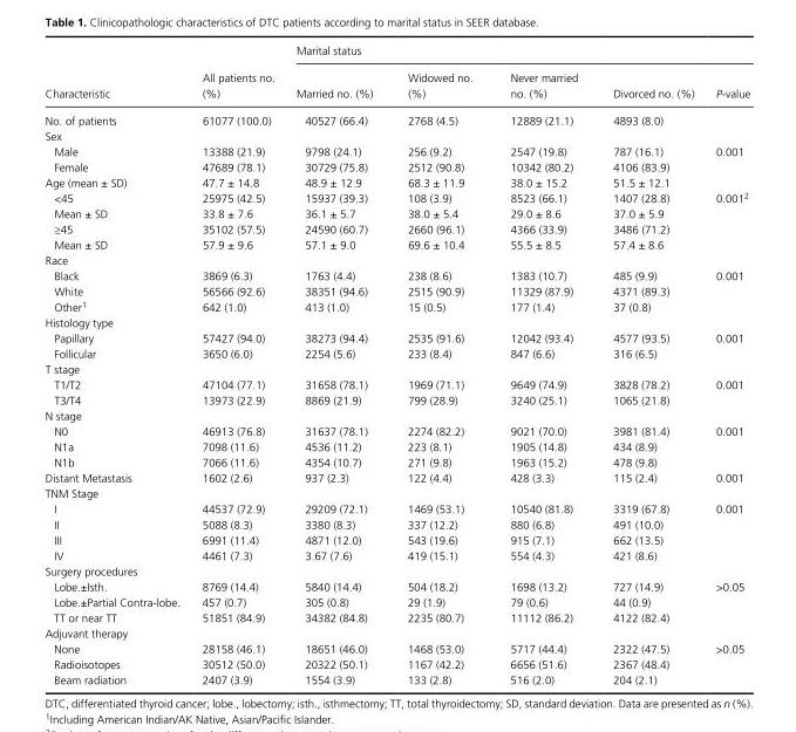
<table><thead><tr><td rowspan="2">Characteristic</td><td rowspan="2">All patients no. (%)</td><td colspan="5">Marital status</td></tr><tr><td>Married no. (%)</td><td>Widowed no. (%)</td><td>Never married no. (%)</td><td>Divorced no. (%)</td><td>P-value</td></tr></thead><tbody><tr><td>No. of patients</td><td>61077 (100.0)</td><td>40527 (66.4)</td><td>2768 (4.5)</td><td>12889 (21.1)</td><td>4893 (8.0)</td><td></td></tr><tr><td colspan="7">Sex</td></tr><tr><td>Male</td><td>13388 (21.9)</td><td>9798 (24.1)</td><td>256 (9.2)</td><td>2547 (19.8)</td><td>787 (16.1)</td><td rowspan="2">0.001</td></tr><tr><td>Female</td><td>47689 (78.1)</td><td>30729 (75.8)</td><td>2512 (90.8)</td><td>10342 (80.2)</td><td>4106 (83.9)</td></tr><tr><td>Age (mean ± SD)</td><td>47.7 ± 14.8</td><td>48.9 ± 12.9</td><td>68.3 ± 11.9</td><td>38.0 ± 15.2</td><td>51.5 ± 12.1</td><td></td></tr><tr><td>&lt;45</td><td>25975 (42.5)</td><td>15937 (39.3)</td><td>108 (3.9)</td><td>8523 (66.1)</td><td>1407 (28.8)</td><td rowspan="4">0.0012</td></tr><tr><td>Mean ± SD</td><td>33.8 ± 7.6</td><td>36.1 ± 5.7</td><td>38.0 ± 5.4</td><td>29.0 ± 8.6</td><td>37.0 ± 5.9</td></tr><tr><td>≥45</td><td>35102 (57.5)</td><td>24590 (60.7)</td><td>2660 (96.1)</td><td>4366 (33.9)</td><td>3486 (71.2)</td></tr><tr><td>Mean ± SD</td><td>57.9 ± 9.6</td><td>57.1 ± 9.0</td><td>69.6 ± 10.4</td><td>55.5 ± 8.5</td><td>57.4 ± 8.6</td></tr><tr><td colspan="7">Race</td></tr><tr><td>Black</td><td>3869 (6.3)</td><td>1763 (4.4)</td><td>238 (8.6)</td><td>1383 (10.7)</td><td>485 (9.9)</td><td rowspan="3">0.001</td></tr><tr><td>White</td><td>56566 (92.6)</td><td>38351 (94.6)</td><td>2515 (90.9)</td><td>11329 (87.9)</td><td>4371 (89.3)</td></tr><tr><td>Other1</td><td>642 (1.0)</td><td>413 (1.0)</td><td>15 (0.5)</td><td>177 (1.4)</td><td>37 (0.8)</td></tr><tr><td colspan="7">Histology type</td></tr><tr><td>Papillary</td><td>57427 (94.0)</td><td>38273 (94.4)</td><td>2535 (91.6)</td><td>12042 (93.4)</td><td>4577 (93.5)</td><td rowspan="2">0.001</td></tr><tr><td>Follicular</td><td>3650 (6.0)</td><td>2254 (5.6)</td><td>233 (8.4)</td><td>847 (6.6)</td><td>316 (6.5)</td></tr><tr><td colspan="7">T stage</td></tr><tr><td>T1/T2</td><td>47104 (77.1)</td><td>31658 (78.1)</td><td>1969 (71.1)</td><td>9649 (74.9)</td><td>3828 (78.2)</td><td rowspan="2">0.001</td></tr><tr><td>T3/T4</td><td>13973 (22.9)</td><td>8869 (21.9)</td><td>799 (28.9)</td><td>3240 (25.1)</td><td>1065 (21.8)</td></tr><tr><td colspan="7">N stage</td></tr><tr><td>N0</td><td>46913 (76.8)</td><td>31637 (78.1)</td><td>2274 (82.2)</td><td>9021 (70.0)</td><td>3981 (81.4)</td><td rowspan="3">0.001</td></tr><tr><td>N1a</td><td>7098 (11.6)</td><td>4536 (11.2)</td><td>223 (8.1)</td><td>1905 (14.8)</td><td>434 (8.9)</td></tr><tr><td>N1b</td><td>7066 (11.6)</td><td>4354 (10.7)</td><td>271 (9.8)</td><td>1963 (15.2)</td><td>478 (9.8)</td></tr><tr><td>Distant Metastasis</td><td>1602 (2.6)</td><td>937 (2.3)</td><td>122 (4.4)</td><td>428 (3.3)</td><td>115 (2.4)</td><td>0.001</td></tr><tr><td colspan="7">TNM Stage</td></tr><tr><td>I</td><td>44537 (72.9)</td><td>29209 (72.1)</td><td>1469 (53.1)</td><td>10540 (81.8)</td><td>3319 (67.8)</td><td rowspan="4">0.001</td></tr><tr><td>II</td><td>5088 (8.3)</td><td>3380 (8.3)</td><td>337 (12.2)</td><td>880 (6.8)</td><td>491 (10.0)</td></tr><tr><td>III</td><td>6991 (11.4)</td><td>4871 (12.0)</td><td>543 (19.6)</td><td>915 (7.1)</td><td>662 (13.5)</td></tr><tr><td>IV</td><td>4461 (7.3)</td><td>3.67 (7.6)</td><td>419 (15.1)</td><td>554 (4.3)</td><td>421 (8.6)</td></tr><tr><td colspan="7">Surgery procedures</td></tr><tr><td>Lobe.±Isth.</td><td>8769 (14.4)</td><td>5840 (14.4)</td><td>504 (18.2)</td><td>1698 (13.2)</td><td>727 (14.9)</td><td rowspan="3">&gt;0.05</td></tr><tr><td>Lobe.±Partial Contra- lobe.</td><td>457 (0.7)</td><td>305 (0.8)</td><td>29 (1.9)</td><td>79 (0.6)</td><td>44 (0.9)</td></tr><tr><td>TT or near TT</td><td>51851 (84.9)</td><td>34382 (84.8)</td><td>2235 (80.7)</td><td>11112 (86.2)</td><td>4122 (82.4)</td></tr><tr><td colspan="7">Adjuvant therapy</td></tr><tr><td>None</td><td>28158 (46.1)</td><td>18651 (46.0)</td><td>1468 (53.0)</td><td>5717 (44.4)</td><td>2322 (47.5)</td><td rowspan="3">&gt;0.05</td></tr><tr><td>Radioisotopes</td><td>30512 (50.0)</td><td>20322 (50.1)</td><td>1167 (42.2)</td><td>6656 (51.6)</td><td>2367 (48.4)</td></tr><tr><td>Beam radiation</td><td>2407 (3.9)</td><td>1554 (3.9)</td><td>133 (2.8)</td><td>516 (2.0)</td><td>204 (2.1)</td></tr></tbody></table>